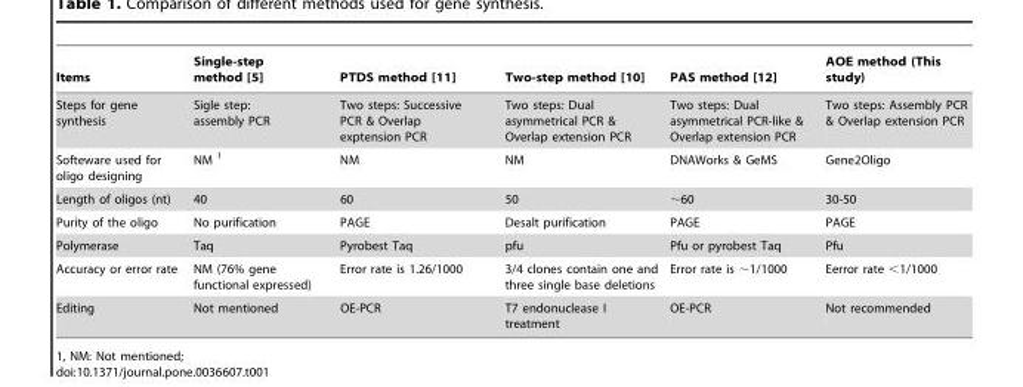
<table><thead><tr><td>Items</td><td>Single-step method [5]</td><td>PTDS method [11]</td><td>Two-step method [10]</td><td>PAS method [12]</td><td>AOE method (This study)</td></tr></thead><tbody><tr><td>Steps for gene synthesis</td><td>Sigle step: assembly PCR</td><td>Two steps: Successive PCR &amp; Overlap exptension PCR</td><td>Two steps: Dual asymmetrical PCR &amp; Overlap extension PCR</td><td>Two steps: Dual asymmetrical PCR-like &amp; Overlap extension PCR</td><td>Two steps: Assembly PCR &amp; Overlap extension PCR</td></tr><tr><td>Softeware used for oligo designing</td><td>NM <sup>1</sup></td><td>NM</td><td>NM</td><td>DNAWorks &amp; GeMS</td><td>Gene2Oligo</td></tr><tr><td>Length of oligos (nt)</td><td>40</td><td>60</td><td>50</td><td>∼60</td><td>30-50</td></tr><tr><td>Purity of the oligo</td><td>No purification</td><td>PAGE</td><td>Desalt purification</td><td>PAGE</td><td>PAGE</td></tr><tr><td>Polymerase</td><td>Taq</td><td>Pyrobest Taq</td><td>pfu</td><td>Pfu or pyrobest Taq</td><td>Pfu</td></tr><tr><td>Accuracy or error rate</td><td>NM (76% gene functional expressed)</td><td>Error rate is 1.26/1000</td><td>3/4 clones contain one and three single base deletions</td><td>Error rate is ∼1/1000</td><td>Eerror rate &lt;1/1000</td></tr><tr><td>Editing</td><td>Not mentioned</td><td>OE-PCR</td><td>T7 endonuclease I treatment</td><td>OE-PCR</td><td>Not recommended</td></tr></tbody></table>